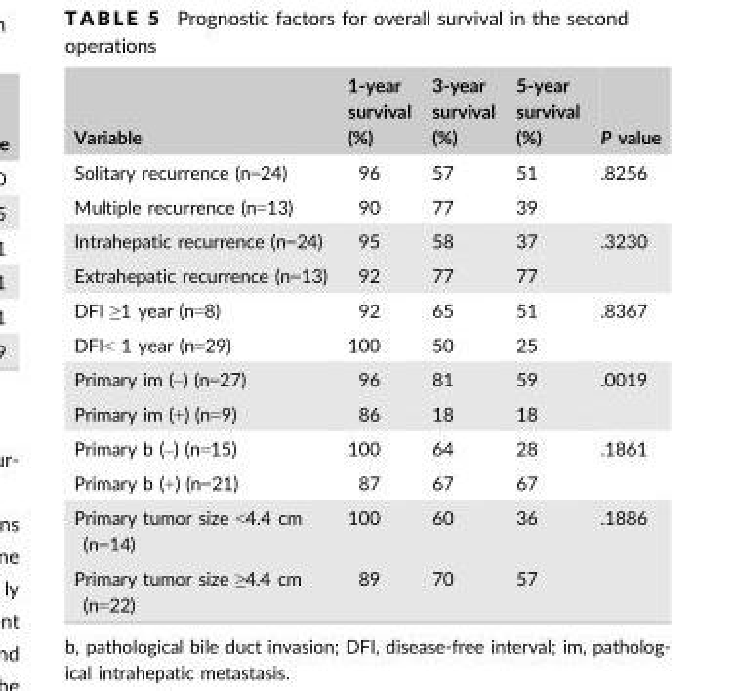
<table><thead><tr><td>Variable</td><td>1-year survival (%)</td><td>3-year survival (%)</td><td>5-year survival (%)</td><td>P value</td></tr></thead><tbody><tr><td>Solitary recurrence (n=24)</td><td>96</td><td>57</td><td>51</td><td rowspan="2">.8256</td></tr><tr><td>Multiple recurrence (n=13)</td><td>90</td><td>77</td><td>39</td></tr><tr><td>Intrahepatic recurrence (n=24)</td><td>95</td><td>58</td><td>37</td><td rowspan="2">.3230</td></tr><tr><td>Extrahepatic recurrence (n=13)</td><td>92</td><td>77</td><td>77</td></tr><tr><td>DFI ≥1 year (n=8)</td><td>92</td><td>65</td><td>51</td><td rowspan="2">.8367</td></tr><tr><td>DFI&lt; 1 year (n=29)</td><td>100</td><td>50</td><td>25</td></tr><tr><td>Primary im (–) (n=27)</td><td>96</td><td>81</td><td>59</td><td rowspan="2">.0019</td></tr><tr><td>Primary im (+) (n=9)</td><td>86</td><td>18</td><td>18</td></tr><tr><td>Primary b (–) (n=15)</td><td>100</td><td>64</td><td>28</td><td rowspan="2">.1861</td></tr><tr><td>Primary b (+) (n=21)</td><td>87</td><td>67</td><td>67</td></tr><tr><td>Primary tumor size &lt;4.4 cm (n=14)</td><td>100</td><td>60</td><td>36</td><td rowspan="2">.1886</td></tr><tr><td>Primary tumor size ≥4.4 cm (n=22)</td><td>89</td><td>70</td><td>57</td></tr></tbody></table>